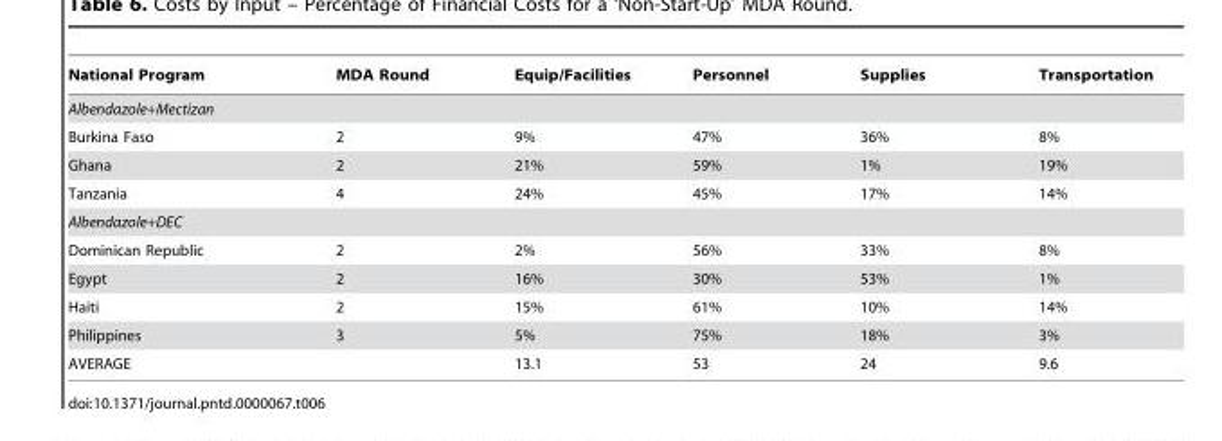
<table><thead><tr><td>National Program</td><td>MDA Round</td><td>Equip/Facilities</td><td>Personnel</td><td>Supplies</td><td>Transportation</td></tr></thead><tbody><tr><td colspan="6">Albendazole+Mectizan</td></tr><tr><td>Burkina Faso</td><td>2</td><td>9%</td><td>47%</td><td>36%</td><td>8%</td></tr><tr><td>Ghana</td><td>2</td><td>21%</td><td>59%</td><td>1%</td><td>19%</td></tr><tr><td>Tanzania</td><td>4</td><td>24%</td><td>45%</td><td>17%</td><td>14%</td></tr><tr><td colspan="6">Albendazole+DEC</td></tr><tr><td>Dominican Republic</td><td>2</td><td>2%</td><td>56%</td><td>33%</td><td>8%</td></tr><tr><td>Egypt</td><td>2</td><td>16%</td><td>30%</td><td>53%</td><td>1%</td></tr><tr><td>Haiti</td><td>2</td><td>15%</td><td>61%</td><td>10%</td><td>14%</td></tr><tr><td>Philippines</td><td>3</td><td>5%</td><td>75%</td><td>18%</td><td>3%</td></tr><tr><td>AVERAGE</td><td></td><td>13.1</td><td>53</td><td>24</td><td>9.6</td></tr></tbody></table>